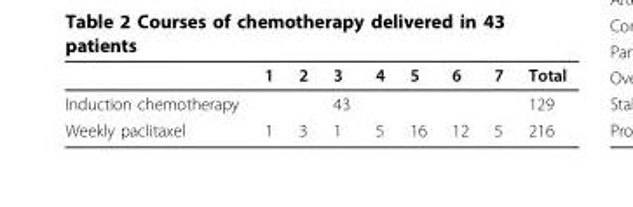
<table><thead><tr><td></td><td>1</td><td>2</td><td>3</td><td>4</td><td>5</td><td>6</td><td>7</td><td>Total</td></tr></thead><tbody><tr><td>Induction chemotherapy</td><td></td><td></td><td>43</td><td></td><td></td><td></td><td></td><td>129</td></tr><tr><td>Weekly paclitaxel</td><td>1</td><td>3</td><td>1</td><td>5</td><td>16</td><td>12</td><td>5</td><td>216</td></tr></tbody></table>